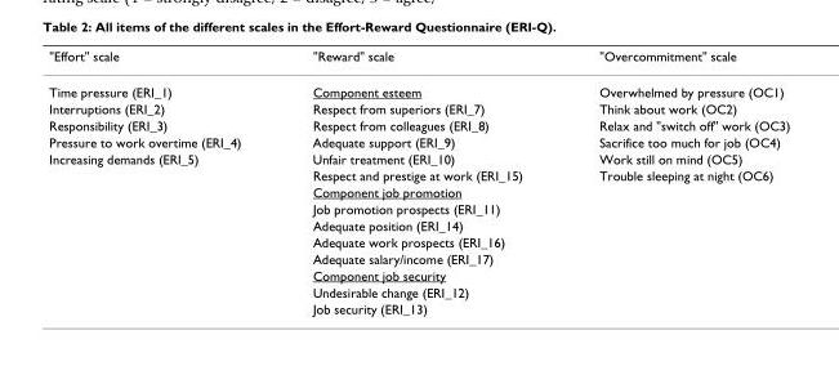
<table><thead><tr><td>&quot;Effort&quot; scale</td><td>&quot;Reward&quot; scale</td><td>&quot;Overcommitment&quot; scale</td></tr></thead><tbody><tr><td>Time pressure (ERI_1)</td><td>Component esteem</td><td>Overwhelmed by pressure (OC1)</td></tr><tr><td>Interruptions (ERI_2)</td><td>Respect from superiors (ERI_7)</td><td>Think about work (OC2)</td></tr><tr><td>Responsibility (ERI_3)</td><td>Respect from colleagues (ERI_8)</td><td>Relax and &quot;switch off&quot; work (OC3)</td></tr><tr><td>Pressure to work overtime (ERI_4)</td><td>Adequate support (ERI_9)</td><td>Sacrifice too much for job (OC4)</td></tr><tr><td rowspan="10">Increasing demands (ERI_5)</td><td>Unfair treatment (ERI_10)</td><td>Work still on mind (OC5)</td></tr><tr><td>Respect and prestige at work (ERI_15)</td><td>Trouble sleeping at night (OC6)</td></tr><tr><td>Component job promotion</td><td></td></tr><tr><td>Job promotion prospects (ERI_11)</td><td></td></tr><tr><td>Adequate position (ERI_14)</td><td></td></tr><tr><td>Adequate work prospects (ERI_16)</td><td></td></tr><tr><td>Adequate salary/income (ERI_17)</td><td></td></tr><tr><td>Component job security</td><td></td></tr><tr><td>Undesirable change (ERI_12)</td><td></td></tr><tr><td>Job security (ERI_13)</td><td></td></tr></tbody></table>